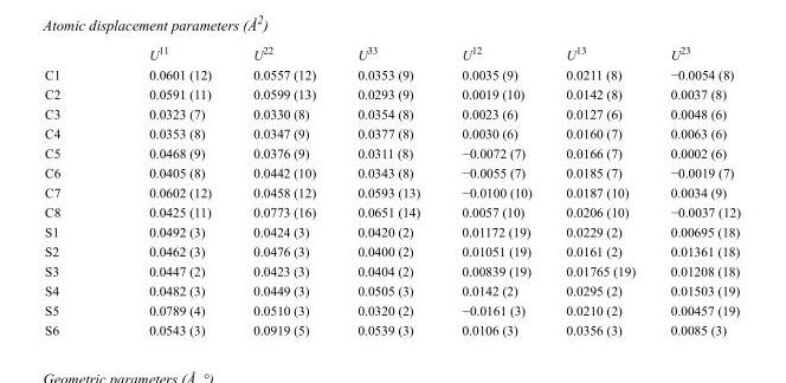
<table><thead><tr><td></td><td>U<sup>11</sup></td><td>U<sup>22</sup></td><td>U<sup>33</sup></td><td>U<sup>12</sup></td><td>U<sup>13</sup></td><td>U<sup>23</sup></td></tr></thead><tbody><tr><td>C1</td><td>0.0601 (12)</td><td>0.0557 (12)</td><td>0.0353 (9)</td><td>0.0035 (9)</td><td>0.0211 (8)</td><td>−0.0054 (8)</td></tr><tr><td>C2</td><td>0.0591 (11)</td><td>0.0599 (13)</td><td>0.0293 (9)</td><td>0.0019 (10)</td><td>0.0142 (8)</td><td>0.0037 (8)</td></tr><tr><td>C3</td><td>0.0323 (7)</td><td>0.0330 (8)</td><td>0.0354 (8)</td><td>0.0023 (6)</td><td>0.0127 (6)</td><td>0.0048 (6)</td></tr><tr><td>C4</td><td>0.0353 (8)</td><td>0.0347 (9)</td><td>0.0377 (8)</td><td>0.0030 (6)</td><td>0.0160 (7)</td><td>0.0063 (6)</td></tr><tr><td>C5</td><td>0.0468 (9)</td><td>0.0376 (9)</td><td>0.0311 (8)</td><td>−0.0072 (7)</td><td>0.0166 (7)</td><td>0.0002 (6)</td></tr><tr><td>C6</td><td>0.0405 (8)</td><td>0.0442 (10)</td><td>0.0343 (8)</td><td>−0.0055 (7)</td><td>0.0185 (7)</td><td>−0.0019 (7)</td></tr><tr><td>C7</td><td>0.0602 (12)</td><td>0.0458 (12)</td><td>0.0593 (13)</td><td>−0.0100 (10)</td><td>0.0187 (10)</td><td>0.0034 (9)</td></tr><tr><td>C8</td><td>0.0425 (11)</td><td>0.0773 (16)</td><td>0.0651 (14)</td><td>0.0057 (10)</td><td>0.0206 (10)</td><td>−0.0037 (12)</td></tr><tr><td>S1</td><td>0.0492 (3)</td><td>0.0424 (3)</td><td>0.0420 (2)</td><td>0.01172 (19)</td><td>0.0229 (2)</td><td>0.00695 (18)</td></tr><tr><td>S2</td><td>0.0462 (3)</td><td>0.0476 (3)</td><td>0.0400 (2)</td><td>0.01051 (19)</td><td>0.0161 (2)</td><td>0.01361 (18)</td></tr><tr><td>S3</td><td>0.0447 (2)</td><td>0.0423 (3)</td><td>0.0404 (2)</td><td>0.00839 (19)</td><td>0.01765 (19)</td><td>0.01208 (18)</td></tr><tr><td>S4</td><td>0.0482 (3)</td><td>0.0449 (3)</td><td>0.0505 (3)</td><td>0.0142 (2)</td><td>0.0295 (2)</td><td>0.01503 (19)</td></tr><tr><td>S5</td><td>0.0789 (4)</td><td>0.0510 (3)</td><td>0.0320 (2)</td><td>−0.0161 (3)</td><td>0.0210 (2)</td><td>0.00457 (19)</td></tr><tr><td>S6</td><td>0.0543 (3)</td><td>0.0919 (5)</td><td>0.0539 (3)</td><td>0.0106 (3)</td><td>0.0356 (3)</td><td>0.0085 (3)</td></tr></tbody></table>